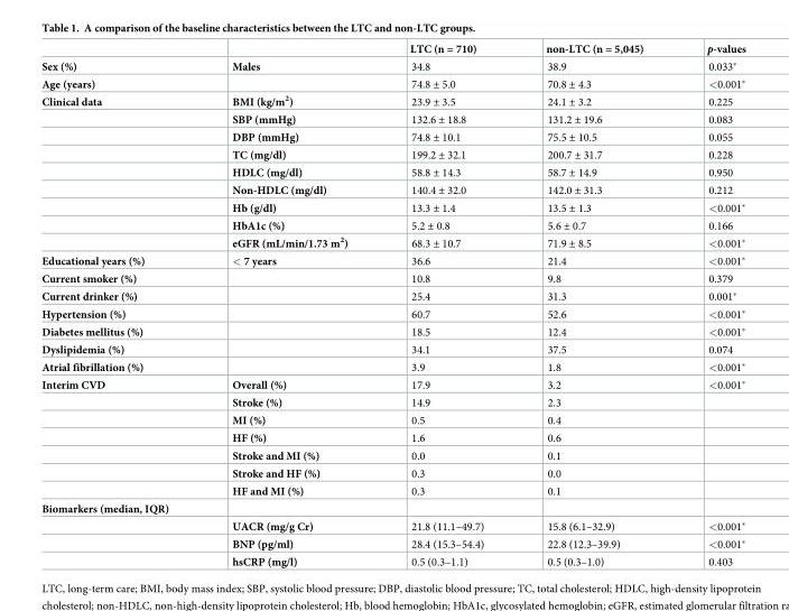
<table><thead><tr><td></td><td></td><td>LTC (n = 710)</td><td>non-LTC (n = 5,045)</td><td>p-values</td></tr></thead><tbody><tr><td>Sex (%)</td><td>Males</td><td>34.8</td><td>38.9</td><td>0.033*</td></tr><tr><td>Age (years)</td><td></td><td>74.8 ± 5.0</td><td>70.8 ± 4.3</td><td>&lt;0.001*</td></tr><tr><td rowspan="9">Clinical data</td><td>BMI (kg/m<sup>2</sup>)</td><td>23.9 ± 3.5</td><td>24.1 ± 3.2</td><td>0.225</td></tr><tr><td>SBP (mmHg)</td><td>132.6 ± 18.8</td><td>131.2 ± 19.6</td><td>0.083</td></tr><tr><td>DBP (mmHg)</td><td>74.8 ± 10.1</td><td>75.5 ± 10.5</td><td>0.055</td></tr><tr><td>TC (mg/dl)</td><td>199.2 ± 32.1</td><td>200.7 ± 31.7</td><td>0.228</td></tr><tr><td>HDLC (mg/dl)</td><td>58.8 ± 14.3</td><td>58.7 ± 14.9</td><td>0.950</td></tr><tr><td>Non-HDLC (mg/dl)</td><td>140.4 ± 32.0</td><td>142.0 ± 31.3</td><td>0.212</td></tr><tr><td>Hb (g/dl)</td><td>13.3 ± 1.4</td><td>13.5 ± 1.3</td><td>&lt;0.001*</td></tr><tr><td>HbA1c (%)</td><td>5.2 ± 0.8</td><td>5.6 ± 0.7</td><td>0.166</td></tr><tr><td>eGFR (mL/min/1.73 m<sup>2</sup>)</td><td>68.3 ± 10.7</td><td>71.9 ± 8.5</td><td>&lt;0.001*</td></tr><tr><td>Educational years (%)</td><td>&lt; 7 years</td><td>36.6</td><td>21.4</td><td>&lt;0.001*</td></tr><tr><td>Current smoker (%)</td><td></td><td>10.8</td><td>9.8</td><td>0.379</td></tr><tr><td>Current drinker (%)</td><td></td><td>25.4</td><td>31.3</td><td>0.001*</td></tr><tr><td>Hypertension (%)</td><td></td><td>60.7</td><td>52.6</td><td>&lt;0.001*</td></tr><tr><td>Diabetes mellitus (%)</td><td></td><td>18.5</td><td>12.4</td><td>&lt;0.001*</td></tr><tr><td>Dyslipidemia (%)</td><td></td><td>34.1</td><td>37.5</td><td>0.074</td></tr><tr><td>Atrial fibrillation (%)</td><td></td><td>3.9</td><td>1.8</td><td>&lt;0.001*</td></tr><tr><td rowspan="7">Interim CVD</td><td>Overall (%)</td><td>17.9</td><td>3.2</td><td>&lt;0.001*</td></tr><tr><td>Stroke (%)</td><td>14.9</td><td>2.3</td><td></td></tr><tr><td>MI (%)</td><td>0.5</td><td>0.4</td><td></td></tr><tr><td>HF (%)</td><td>1.6</td><td>0.6</td><td></td></tr><tr><td>Stroke and MI (%)</td><td>0.0</td><td>0.1</td><td></td></tr><tr><td>Stroke and HF (%)</td><td>0.3</td><td>0.0</td><td></td></tr><tr><td>HF and MI (%)</td><td>0.3</td><td>0.1</td><td></td></tr><tr><td colspan="5">Biomarkers (median, IQR)</td></tr><tr><td></td><td>UACR (mg/g Cr)</td><td>21.8 (11.1–49.7)</td><td>15.8 (6.1–32.9)</td><td>&lt;0.001*</td></tr><tr><td></td><td>BNP (pg/ml)</td><td>28.4 (15.3–54.4)</td><td>22.8 (12.3–39.9)</td><td>&lt;0.001*</td></tr><tr><td></td><td>hsCRP (mg/l)</td><td>0.5 (0.3–1.1)</td><td>0.5 (0.3–1.0)</td><td>0.403</td></tr></tbody></table>